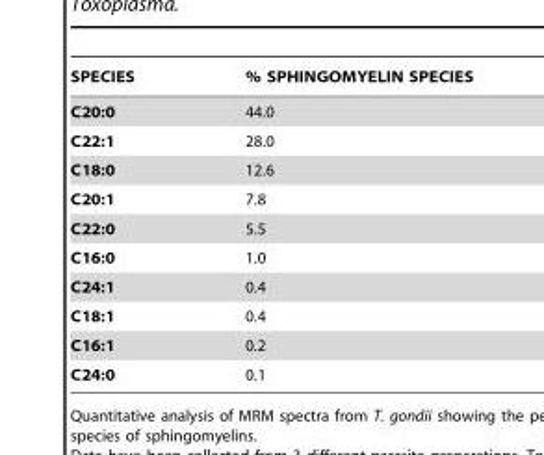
<table><thead><tr><td>SPECIES</td><td>% SPHINGOMYELIN SPECIES</td></tr></thead><tbody><tr><td>C20:0</td><td>44.0</td></tr><tr><td>C22:1</td><td>28.0</td></tr><tr><td>C18:0</td><td>12.6</td></tr><tr><td>C20:1</td><td>7.8</td></tr><tr><td>C22:0</td><td>5.5</td></tr><tr><td>C16:0</td><td>1.0</td></tr><tr><td>C24:1</td><td>0.4</td></tr><tr><td>C18:1</td><td>0.4</td></tr><tr><td>C16:1</td><td>0.2</td></tr><tr><td>C24:0</td><td>0.1</td></tr></tbody></table>